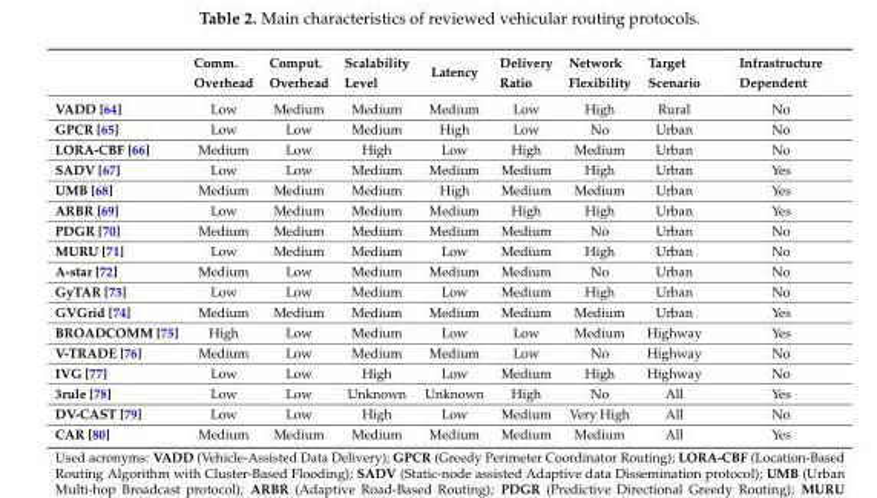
<table><thead><tr><td></td><td>Comm. Overhead</td><td>Comput. Overhead</td><td>Scalability Level</td><td>Latency</td><td>Delivery Ratio</td><td>Network Flexibility</td><td>Target Scenario</td><td>Infrastructure Dependent</td></tr></thead><tbody><tr><td>VADD [64]</td><td>Low</td><td>Medium</td><td>Medium</td><td>Medium</td><td>Low</td><td>High</td><td>Rural</td><td>No</td></tr><tr><td>GPCR [65]</td><td>Low</td><td>Low</td><td>Medium</td><td>High</td><td>Low</td><td>No</td><td>Urban</td><td>No</td></tr><tr><td>LORA-CBF [66]</td><td>Medium</td><td>Low</td><td>High</td><td>Low</td><td>High</td><td>Medium</td><td>Urban</td><td>No</td></tr><tr><td>SADV [67]</td><td>Low</td><td>Low</td><td>Medium</td><td>Medium</td><td>Medium</td><td>High</td><td>Urban</td><td>Yes</td></tr><tr><td>UMB [68]</td><td>Medium</td><td>Medium</td><td>Medium</td><td>High</td><td>Medium</td><td>Medium</td><td>Urban</td><td>Yes</td></tr><tr><td>ARBR [69]</td><td>Low</td><td>Medium</td><td>Medium</td><td>Medium</td><td>High</td><td>High</td><td>Urban</td><td>Yes</td></tr><tr><td>PDGR [70]</td><td>Medium</td><td>Medium</td><td>Medium</td><td>Medium</td><td>Medium</td><td>No</td><td>Urban</td><td>No</td></tr><tr><td>MURU [71]</td><td>Low</td><td>Medium</td><td>Medium</td><td>Low</td><td>Medium</td><td>High</td><td>Urban</td><td>No</td></tr><tr><td>A-star [72]</td><td>Medium</td><td>Low</td><td>Medium</td><td>Medium</td><td>Medium</td><td>No</td><td>Urban</td><td>No</td></tr><tr><td>GyTAR [73]</td><td>Low</td><td>Low</td><td>Medium</td><td>Low</td><td>Medium</td><td>High</td><td>Urban</td><td>No</td></tr><tr><td>GVGrid [74]</td><td>Medium</td><td>Medium</td><td>Medium</td><td>Medium</td><td>Medium</td><td>Medium</td><td>Urban</td><td>Yes</td></tr><tr><td>BROADCOMM [75]</td><td>High</td><td>Low</td><td>Medium</td><td>Low</td><td>Low</td><td>Medium</td><td>Highway</td><td>Yes</td></tr><tr><td>V-TRADE [76]</td><td>Medium</td><td>Low</td><td>Medium</td><td>Medium</td><td>Low</td><td>No</td><td>Highway</td><td>No</td></tr><tr><td>IVG [77]</td><td>Low</td><td>Low</td><td>High</td><td>Low</td><td>Medium</td><td>High</td><td>Highway</td><td>No</td></tr><tr><td>3rule [78]</td><td>Low</td><td>Low</td><td>Unknown</td><td>Unknown</td><td>High</td><td>No</td><td>All</td><td>Yes</td></tr><tr><td>DV-CAST [79]</td><td>Low</td><td>Low</td><td>High</td><td>Low</td><td>Medium</td><td>Very High</td><td>All</td><td>No</td></tr><tr><td>CAR [80]</td><td>Medium</td><td>Medium</td><td>Medium</td><td>Medium</td><td>Medium</td><td>Medium</td><td>All</td><td>Yes</td></tr></tbody></table>